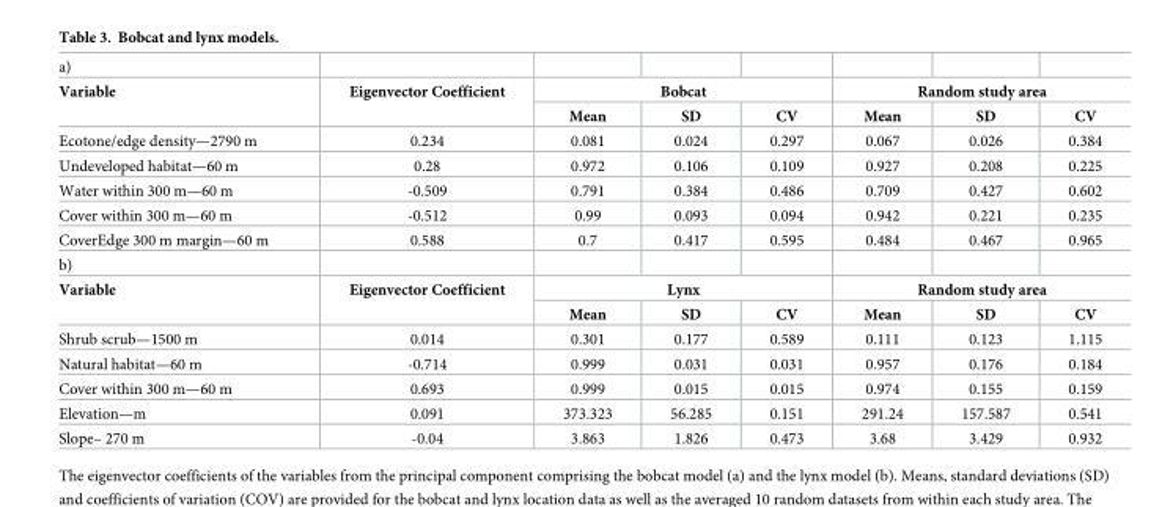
<table><tbody><tr><td colspan="8">a)</td></tr><tr><td rowspan="2">Variable</td><td rowspan="2">Eigenvector Coefficient</td><td colspan="3">Bobcat</td><td colspan="3">Random study area</td></tr><tr><td>Mean</td><td>SD</td><td>CV</td><td>Mean</td><td>SD</td><td>CV</td></tr><tr><td>Ecotone/edge density—2790 m</td><td>0.234</td><td>0.081</td><td>0.024</td><td>0.297</td><td>0.067</td><td>0.026</td><td>0.384</td></tr><tr><td>Undeveloped habitat—60 m</td><td>0.28</td><td>0.972</td><td>0.106</td><td>0.109</td><td>0.927</td><td>0.208</td><td>0.225</td></tr><tr><td>Water within 300 m—60 m</td><td>-0.509</td><td>0.791</td><td>0.384</td><td>0.486</td><td>0.709</td><td>0.427</td><td>0.602</td></tr><tr><td>Cover within 300 m—60 m</td><td>-0.512</td><td>0.99</td><td>0.093</td><td>0.094</td><td>0.942</td><td>0.221</td><td>0.235</td></tr><tr><td>CoverEdge 300 m margin—60 m</td><td>0.588</td><td>0.7</td><td>0.417</td><td>0.595</td><td>0.484</td><td>0.467</td><td>0.965</td></tr><tr><td colspan="8">b)</td></tr><tr><td rowspan="2">Variable</td><td rowspan="2">Eigenvector Coefficient</td><td colspan="3">Lynx</td><td colspan="3">Random study area</td></tr><tr><td>Mean</td><td>SD</td><td>CV</td><td>Mean</td><td>SD</td><td>CV</td></tr><tr><td>Shrub scrub—1500 m</td><td>0.014</td><td>0.301</td><td>0.177</td><td>0.589</td><td>0.111</td><td>0.123</td><td>1.115</td></tr><tr><td>Natural habitat—60 m</td><td>-0.714</td><td>0.999</td><td>0.031</td><td>0.031</td><td>0.957</td><td>0.176</td><td>0.184</td></tr><tr><td>Cover within 300 m—60 m</td><td>0.693</td><td>0.999</td><td>0.015</td><td>0.015</td><td>0.974</td><td>0.155</td><td>0.159</td></tr><tr><td>Elevation—m</td><td>0.091</td><td>373.323</td><td>56.285</td><td>0.151</td><td>291.24</td><td>157.587</td><td>0.541</td></tr><tr><td>Slope– 270 m</td><td>-0.04</td><td>3.863</td><td>1.826</td><td>0.473</td><td>3.68</td><td>3.429</td><td>0.932</td></tr></tbody></table>